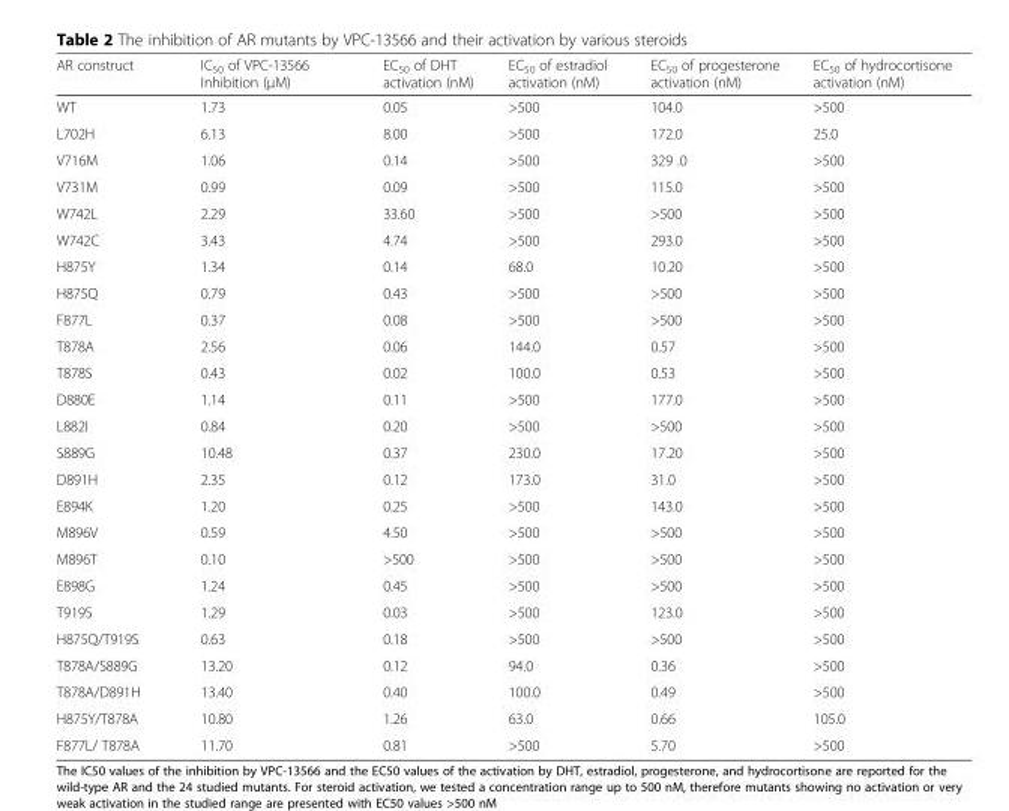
<table><thead><tr><td>AR construct</td><td>IC<sub>50</sub> of VPC-13566 Inhibition (μM)</td><td>EC<sub>50</sub> of DHT activation (nM)</td><td>EC<sub>50</sub> of estradiol activation (nM)</td><td>EC<sub>50</sub> of progesterone activation (nM)</td><td>EC<sub>50</sub> of hydrocortisone activation (nM)</td></tr></thead><tbody><tr><td>WT</td><td>1.73</td><td>0.05</td><td>&gt;500</td><td>104.0</td><td>&gt;500</td></tr><tr><td>L702H</td><td>6.13</td><td>8.00</td><td>&gt;500</td><td>172.0</td><td>25.0</td></tr><tr><td>V716M</td><td>1.06</td><td>0.14</td><td>&gt;500</td><td>329 .0</td><td>&gt;500</td></tr><tr><td>V731M</td><td>0.99</td><td>0.09</td><td>&gt;500</td><td>115.0</td><td>&gt;500</td></tr><tr><td>W742L</td><td>2.29</td><td>33.60</td><td>&gt;500</td><td>&gt;500</td><td>&gt;500</td></tr><tr><td>W742C</td><td>3.43</td><td>4.74</td><td>&gt;500</td><td>293.0</td><td>&gt;500</td></tr><tr><td>H875Y</td><td>1.34</td><td>0.14</td><td>68.0</td><td>10.20</td><td>&gt;500</td></tr><tr><td>H875Q</td><td>0.79</td><td>0.43</td><td>&gt;500</td><td>&gt;500</td><td>&gt;500</td></tr><tr><td>F877L</td><td>0.37</td><td>0.08</td><td>&gt;500</td><td>&gt;500</td><td>&gt;500</td></tr><tr><td>T878A</td><td>2.56</td><td>0.06</td><td>144.0</td><td>0.57</td><td>&gt;500</td></tr><tr><td>T878S</td><td>0.43</td><td>0.02</td><td>100.0</td><td>0.53</td><td>&gt;500</td></tr><tr><td>D880E</td><td>1.14</td><td>0.11</td><td>&gt;500</td><td>177.0</td><td>&gt;500</td></tr><tr><td>L882I</td><td>0.84</td><td>0.20</td><td>&gt;500</td><td>&gt;500</td><td>&gt;500</td></tr><tr><td>S889G</td><td>10.48</td><td>0.37</td><td>230.0</td><td>17.20</td><td>&gt;500</td></tr><tr><td>D891H</td><td>2.35</td><td>0.12</td><td>173.0</td><td>31.0</td><td>&gt;500</td></tr><tr><td>E894K</td><td>1.20</td><td>0.25</td><td>&gt;500</td><td>143.0</td><td>&gt;500</td></tr><tr><td>M896V</td><td>0.59</td><td>4.50</td><td>&gt;500</td><td>&gt;500</td><td>&gt;500</td></tr><tr><td>M896T</td><td>0.10</td><td>&gt;500</td><td>&gt;500</td><td>&gt;500</td><td>&gt;500</td></tr><tr><td>E898G</td><td>1.24</td><td>0.45</td><td>&gt;500</td><td>&gt;500</td><td>&gt;500</td></tr><tr><td>T919S</td><td>1.29</td><td>0.03</td><td>&gt;500</td><td>123.0</td><td>&gt;500</td></tr><tr><td>H875Q/T919S</td><td>0.63</td><td>0.18</td><td>&gt;500</td><td>&gt;500</td><td>&gt;500</td></tr><tr><td>T878A/S889G</td><td>13.20</td><td>0.12</td><td>94.0</td><td>0.36</td><td>&gt;500</td></tr><tr><td>T878A/D891H</td><td>13.40</td><td>0.40</td><td>100.0</td><td>0.49</td><td>&gt;500</td></tr><tr><td>H875Y/T878A</td><td>10.80</td><td>1.26</td><td>63.0</td><td>0.66</td><td>105.0</td></tr><tr><td>F877L/ T878A</td><td>11.70</td><td>0.81</td><td>&gt;500</td><td>5.70</td><td>&gt;500</td></tr></tbody></table>